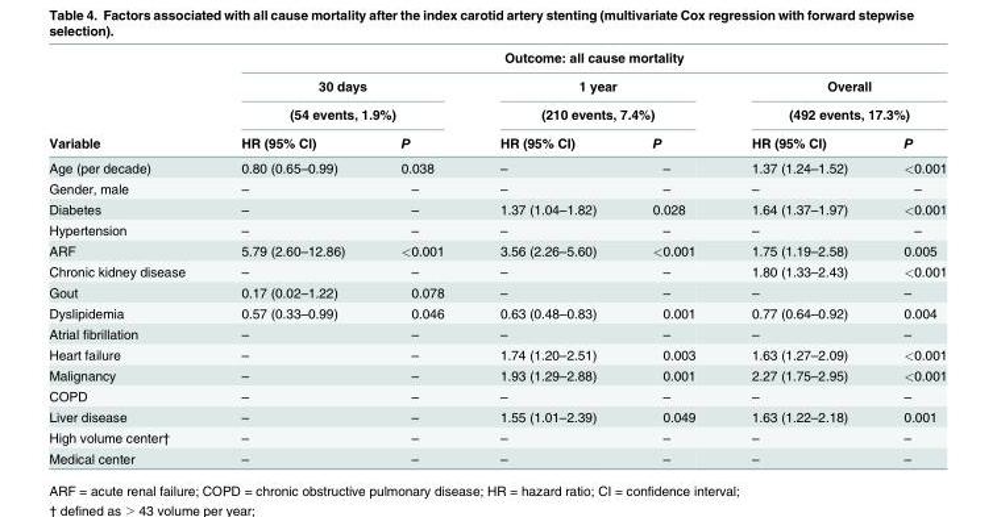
<table><thead><tr><td rowspan="4">Variable</td><td colspan="6">Outcome: all cause mortality</td></tr><tr><td rowspan="2" colspan="2">30 days (54 events, 1.9%)</td><td rowspan="2" colspan="2">1 year (210 events, 7.4%)</td><td rowspan="2" colspan="2">Overall (492 events, 17.3%)</td></tr><tr></tr><tr><td>HR (95% CI)</td><td>P</td><td>HR (95% CI)</td><td>P</td><td>HR (95% CI)</td><td>P</td></tr></thead><tbody><tr><td>Age (per decade)</td><td>0.80 (0.65–0.99)</td><td>0.038</td><td>–</td><td>–</td><td>1.37 (1.24–1.52)</td><td>&lt;0.001</td></tr><tr><td>Gender, male</td><td>–</td><td>–</td><td>–</td><td>–</td><td>–</td><td>–</td></tr><tr><td>Diabetes</td><td>–</td><td>–</td><td>1.37 (1.04–1.82)</td><td>0.028</td><td>1.64 (1.37–1.97)</td><td>&lt;0.001</td></tr><tr><td>Hypertension</td><td>–</td><td>–</td><td>–</td><td>–</td><td>–</td><td>–</td></tr><tr><td>ARF</td><td>5.79 (2.60–12.86)</td><td>&lt;0.001</td><td>3.56 (2.26–5.60)</td><td>&lt;0.001</td><td>1.75 (1.19–2.58)</td><td>0.005</td></tr><tr><td>Chronic kidney disease</td><td>–</td><td>–</td><td>–</td><td>–</td><td>1.80 (1.33–2.43)</td><td>&lt;0.001</td></tr><tr><td>Gout</td><td>0.17 (0.02–1.22)</td><td>0.078</td><td>–</td><td>–</td><td>–</td><td>–</td></tr><tr><td>Dyslipidemia</td><td>0.57 (0.33–0.99)</td><td>0.046</td><td>0.63 (0.48–0.83)</td><td>0.001</td><td>0.77 (0.64–0.92)</td><td>0.004</td></tr><tr><td>Atrial fibrillation</td><td>–</td><td>–</td><td>–</td><td>–</td><td>–</td><td>–</td></tr><tr><td>Heart failure</td><td>–</td><td>–</td><td>1.74 (1.20–2.51)</td><td>0.003</td><td>1.63 (1.27–2.09)</td><td>&lt;0.001</td></tr><tr><td>Malignancy</td><td>–</td><td>–</td><td>1.93 (1.29–2.88)</td><td>0.001</td><td>2.27 (1.75–2.95)</td><td>&lt;0.001</td></tr><tr><td>COPD</td><td>–</td><td>–</td><td>–</td><td>–</td><td>–</td><td>–</td></tr><tr><td>Liver disease</td><td>–</td><td>–</td><td>1.55 (1.01–2.39)</td><td>0.049</td><td>1.63 (1.22–2.18)</td><td>0.001</td></tr><tr><td>High volume center†</td><td>–</td><td>–</td><td>–</td><td>–</td><td>–</td><td>–</td></tr><tr><td>Medical center</td><td>–</td><td>–</td><td>–</td><td>–</td><td>–</td><td>–</td></tr></tbody></table>